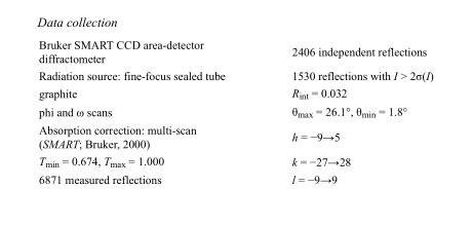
<table><tbody><tr><td>Bruker SMART CCD area-detector diffractometer</td><td>2406 independent reflections</td></tr><tr><td>Radiation source: fine-focus sealed tube</td><td>1530 reflections with I &gt; 2σ(I)</td></tr><tr><td>graphite</td><td>R<sub>int</sub> = 0.032</td></tr><tr><td>phi and ω scans</td><td>θ<sub>max</sub> = 26.1°, θ<sub>min</sub> = 1.8°</td></tr><tr><td>Absorption correction: multi-scan (SMART; Bruker, 2000)</td><td>h = −9→5</td></tr><tr><td>T<sub>min</sub> = 0.674, T<sub>max</sub> = 1.000</td><td>k = −27→28</td></tr><tr><td>6871 measured reflections</td><td>l = −9→9</td></tr></tbody></table>